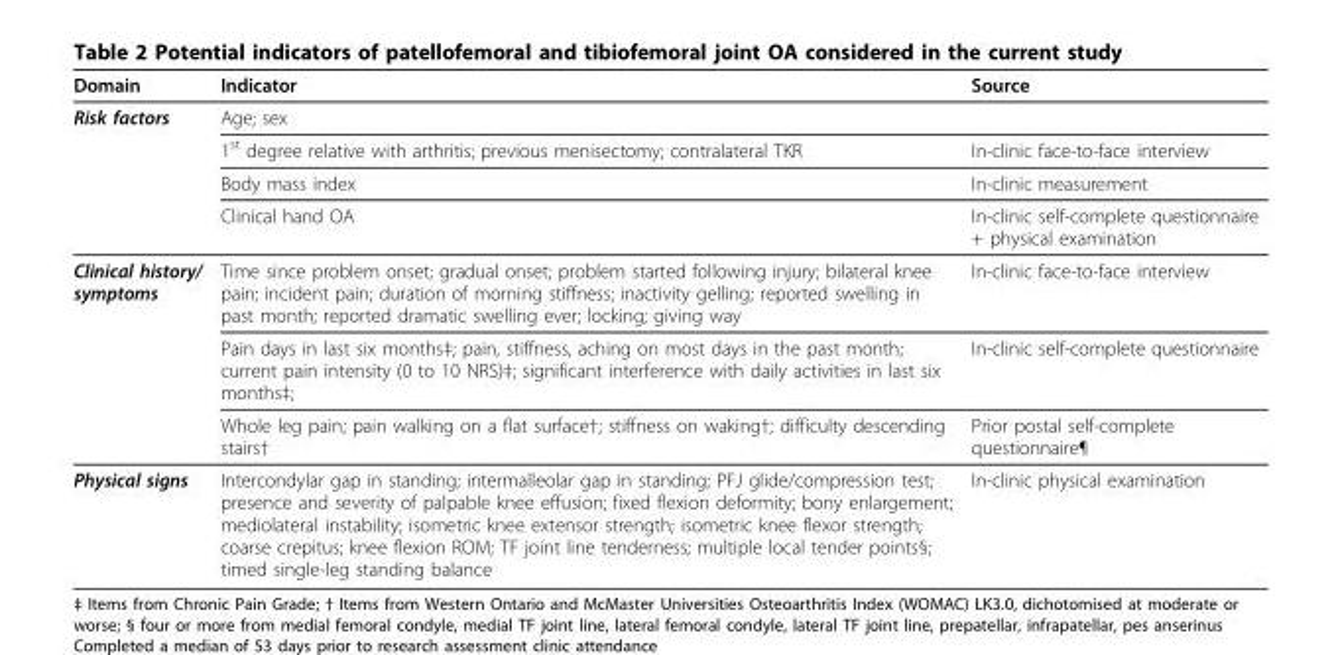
<table><thead><tr><td>Domain</td><td>Indicator</td><td>Source</td></tr></thead><tbody><tr><td rowspan="4">Risk factors</td><td>Age; sex</td><td></td></tr><tr><td>1<sup>st</sup> degree relative with arthritis; previous menisectomy; contralateral TKR</td><td>In-clinic face-to-face interview</td></tr><tr><td>Body mass index</td><td>In-clinic measurement</td></tr><tr><td>Clinical hand OA</td><td>In-clinic self-complete questionnaire + physical examination</td></tr><tr><td rowspan="3">Clinical history/ symptoms</td><td>Time since problem onset; gradual onset; problem started following injury; bilateral knee pain; incident pain; duration of morning stiffness; inactivity gelling; reported swelling in past month; reported dramatic swelling ever; locking; giving way</td><td>In-clinic face-to-face interview</td></tr><tr><td>Pain days in last six months‡; pain, stiffness, aching on most days in the past month; current pain intensity (0 to 10 NRS)‡; significant interference with daily activities in last six months‡;</td><td>In-clinic self-complete questionnaire</td></tr><tr><td>Whole leg pain; pain walking on a flat surface†; stiffness on waking†; difficulty descending stairs†</td><td>Prior postal self-complete questionnaire¶</td></tr><tr><td>Physical signs</td><td>Intercondylar gap in standing; intermalleolar gap in standing; PFJ glide/compression test; presence and severity of palpable knee effusion; fixed flexion deformity; bony enlargement; mediolateral instability; isometric knee extensor strength; isometric knee flexor strength; coarse crepitus; knee flexion ROM; TF joint line tenderness; multiple local tender points§; timed single-leg standing balance</td><td>In-clinic physical examination</td></tr></tbody></table>